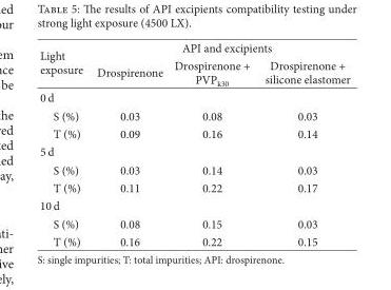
<table><thead><tr><td rowspan="2">Light exposure</td><td colspan="3">API and excipients</td></tr><tr><td>Drospirenone</td><td>Drospirenone + PVP<sub>k30</sub></td><td>Drospirenone + silicone elastomer</td></tr></thead><tbody><tr><td colspan="4">0 d</td></tr><tr><td>S (%)</td><td>0.03</td><td>0.08</td><td>0.03</td></tr><tr><td>T (%)</td><td>0.09</td><td>0.16</td><td>0.14</td></tr><tr><td colspan="4">5 d</td></tr><tr><td>S (%)</td><td>0.03</td><td>0.14</td><td>0.03</td></tr><tr><td>T (%)</td><td>0.11</td><td>0.22</td><td>0.17</td></tr><tr><td colspan="4">10 d</td></tr><tr><td>S (%)</td><td>0.08</td><td>0.15</td><td>0.03</td></tr><tr><td>T (%)</td><td>0.16</td><td>0.22</td><td>0.15</td></tr></tbody></table>